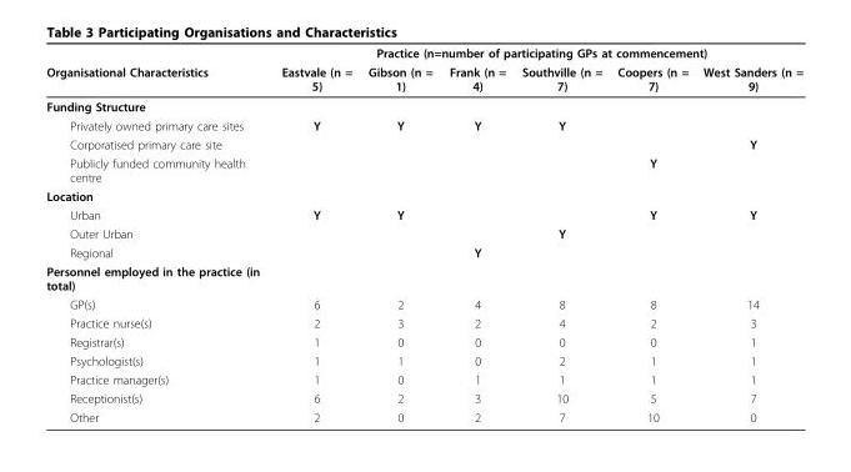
<table><thead><tr><td rowspan="2">Organisational Characteristics</td><td colspan="6">Practice (n=number of participating GPs at commencement)</td></tr><tr><td>Eastvale (n = 5)</td><td>Gibson (n = 1)</td><td>Frank (n = 4)</td><td>Southville (n = 7)</td><td>Coopers (n = 7)</td><td>West Sanders (n = 9)</td></tr></thead><tbody><tr><td colspan="7">Funding Structure</td></tr><tr><td>Privately owned primary care sites</td><td>Y</td><td>Y</td><td>Y</td><td>Y</td><td></td><td></td></tr><tr><td>Corporatised primary care site</td><td></td><td></td><td></td><td></td><td></td><td>Y</td></tr><tr><td>Publicly funded community health centre</td><td></td><td></td><td></td><td></td><td>Y</td><td></td></tr><tr><td colspan="7">Location</td></tr><tr><td>Urban</td><td>Y</td><td>Y</td><td></td><td></td><td>Y</td><td>Y</td></tr><tr><td>Outer Urban</td><td></td><td></td><td></td><td>Y</td><td></td><td></td></tr><tr><td>Regional</td><td></td><td></td><td>Y</td><td></td><td></td><td></td></tr><tr><td colspan="7">Personnel employed in the practice (in total)</td></tr><tr><td>GP(s)</td><td>6</td><td>2</td><td>4</td><td>8</td><td>8</td><td>14</td></tr><tr><td>Practice nurse(s)</td><td>2</td><td>3</td><td>2</td><td>4</td><td>2</td><td>3</td></tr><tr><td>Registrar(s)</td><td>1</td><td>0</td><td>0</td><td>0</td><td>0</td><td>1</td></tr><tr><td>Psychologist(s)</td><td>1</td><td>1</td><td>0</td><td>2</td><td>1</td><td>1</td></tr><tr><td>Practice manager(s)</td><td>1</td><td>0</td><td>1</td><td>1</td><td>1</td><td>1</td></tr><tr><td>Receptionist(s)</td><td>6</td><td>2</td><td>3</td><td>10</td><td>5</td><td>7</td></tr><tr><td>Other</td><td>2</td><td>0</td><td>2</td><td>7</td><td>10</td><td>0</td></tr></tbody></table>